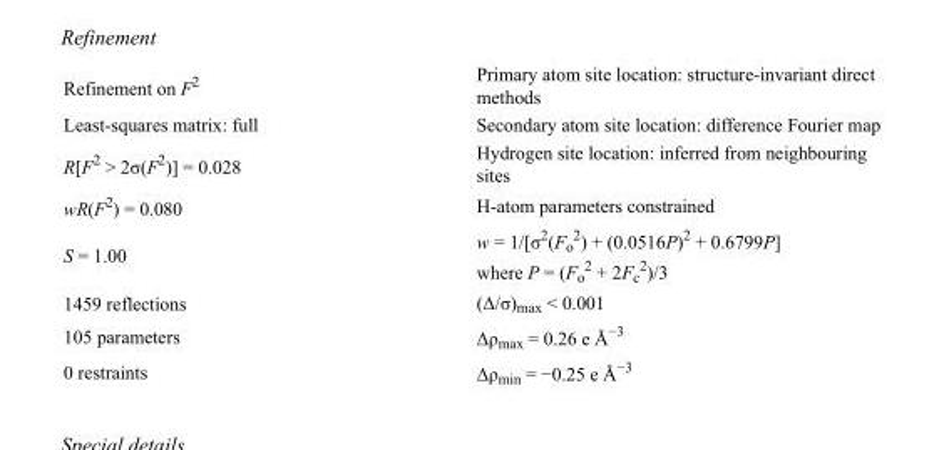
<table><tbody><tr><td>Refinement on F<sup>2</sup></td><td>Primary atom site location: structure-invariant direct methods</td></tr><tr><td>Least-squares matrix: full</td><td>Secondary atom site location: difference Fourier map</td></tr><tr><td>R[F<sup>2</sup> &gt; 2σ(F<sup>2</sup>)] = 0.028</td><td>Hydrogen site location: inferred from neighbouring sites</td></tr><tr><td>wR(F<sup>2</sup>) = 0.080</td><td>H-atom parameters constrained</td></tr><tr><td>S = 1.00</td><td>w = 1/[σ<sup>2</sup>(F<sub>o</sub> <sup>2</sup>) + (0.0516P)<sup>2</sup> + 0.6799P] where P = (F<sub>o</sub> <sup>2</sup> + 2F<sub>c</sub> <sup>2</sup>)/3</td></tr><tr><td>1459 reflections</td><td>(Δ/σ)<sub>max</sub> &lt; 0.001</td></tr><tr><td>105 parameters</td><td>Δρ<sub>max</sub> = 0.26 e Å<sup>−3</sup></td></tr><tr><td>0 restraints</td><td>Δρ<sub>min</sub> = −0.25 e Å<sup>−3</sup></td></tr></tbody></table>